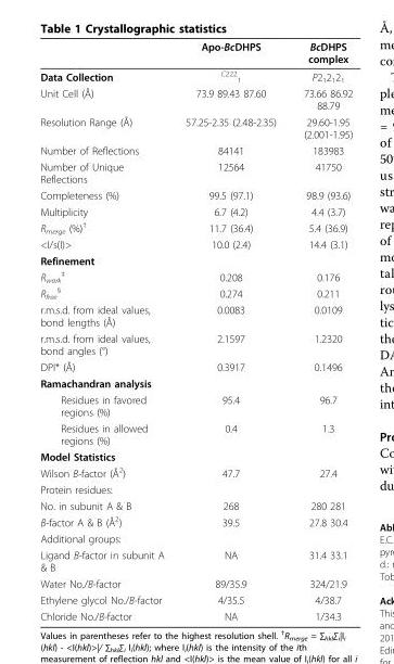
<table><thead><tr><td></td><td>Apo-BcDHPS</td><td>BcDHPS complex</td></tr></thead><tbody><tr><td>Data Collection</td><td><sup>C222</sup> <sub>1</sub></td><td>P2<sub>1</sub>2<sub>1</sub>2<sub>1</sub></td></tr><tr><td>Unit Cell (Å)</td><td>73.9 89.43 87.60</td><td>73.66 86.92 88.79</td></tr><tr><td>Resolution Range (Å)</td><td>57.25-2.35 (2.48-2.35)</td><td>29.60-1.95 (2.001-1.95)</td></tr><tr><td>Number of Reflections</td><td>84141</td><td>183983</td></tr><tr><td>Number of Unique Reflections</td><td>12564</td><td>41750</td></tr><tr><td>Completeness (%)</td><td>99.5 (97.1)</td><td>98.9 (93.6)</td></tr><tr><td>Multiplicity</td><td>6.7 (4.2)</td><td>4.4 (3.7)</td></tr><tr><td>R<sub>merge</sub> (%)<sup>†</sup></td><td>11.7 (36.4)</td><td>5.4 (36.9)</td></tr><tr><td>&lt;I/s(I)&gt;</td><td>10.0 (2.4)</td><td>14.4 (3.1)</td></tr><tr><td colspan="3">Refinement</td></tr><tr><td>R<sub>work</sub> <sup>‡</sup></td><td>0.208</td><td>0.176</td></tr><tr><td>R<sub>free</sub> <sup>§</sup></td><td>0.274</td><td>0.211</td></tr><tr><td>r.m.s.d. from ideal values, bond lengths (Å)</td><td>0.0083</td><td>0.0109</td></tr><tr><td>r.m.s.d. from ideal values, bond angles (°)</td><td>2.1597</td><td>1.2320</td></tr><tr><td>DPI* (Å)</td><td>0.3917</td><td>0.1496</td></tr><tr><td colspan="3">Ramachandran analysis</td></tr><tr><td>Residues in favored regions (%)</td><td>95.4</td><td>96.7</td></tr><tr><td>Residues in allowed regions (%)</td><td>0.4</td><td>1.3</td></tr><tr><td colspan="3">Model Statistics</td></tr><tr><td>Wilson B-factor (Å<sup>2</sup>)</td><td>47.7</td><td>27.4</td></tr><tr><td colspan="3">Protein residues:</td></tr><tr><td>No. in subunit A &amp; B</td><td>268</td><td>280 281</td></tr><tr><td>B-factor A &amp; B (Å<sup>2</sup>)</td><td>39.5</td><td>27.8 30.4</td></tr><tr><td colspan="3">Additional groups:</td></tr><tr><td>Ligand B-factor in subunit A &amp; B</td><td>NA</td><td>31.4 33.1</td></tr><tr><td>Water No./B-factor</td><td>89/35.9</td><td>324/21.9</td></tr><tr><td>Ethylene glycol No./B-factor</td><td>4/35.5</td><td>4/38.7</td></tr><tr><td>Chloride No./B-factor</td><td>NA</td><td>1/34.3</td></tr></tbody></table>